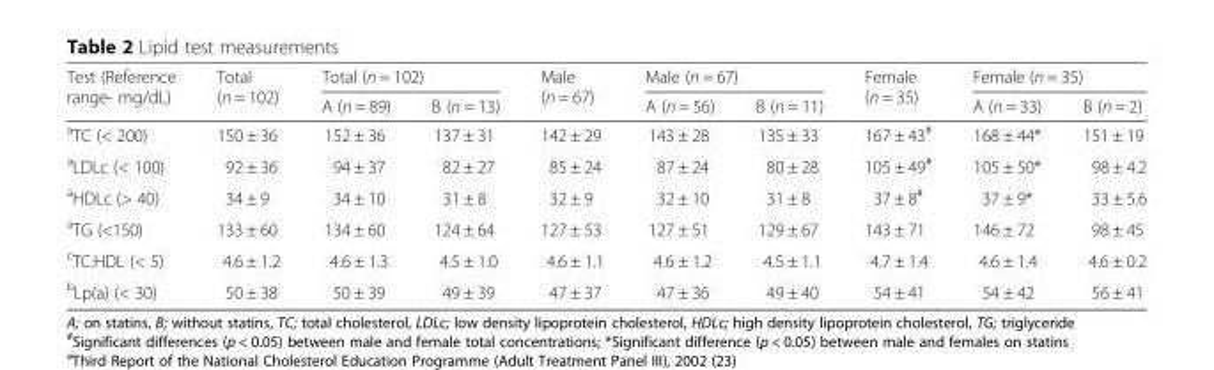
<table><thead><tr><td rowspan="2">Test (Reference range- mg/dL)</td><td rowspan="2">Total (n = 102)</td><td colspan="2">Total (n = 102)</td><td rowspan="2">Male (n = 67)</td><td colspan="2">Male (n = 67)</td><td rowspan="2">Female (n = 35)</td><td colspan="2">Female (n = 35)</td></tr><tr><td>A (n = 89)</td><td>B (n = 13)</td><td>A (n = 56)</td><td>B (n = 11)</td><td>A (n = 33)</td><td>B (n = 2)</td></tr></thead><tbody><tr><td><sup>a</sup>TC (&lt; 200)</td><td>150 ± 36</td><td>152 ± 36</td><td>137 ± 31</td><td>142 ± 29</td><td>143 ± 28</td><td>135 ± 33</td><td>167 ± 43<sup>#</sup></td><td>168 ± 44*</td><td>151 ± 19</td></tr><tr><td><sup>a</sup>LDLc (&lt; 100)</td><td>92 ± 36</td><td>94 ± 37</td><td>82 ± 27</td><td>85 ± 24</td><td>87 ± 24</td><td>80 ± 28</td><td>105 ± 49<sup>#</sup></td><td>105 ± 50*</td><td>98 ± 4.2</td></tr><tr><td><sup>a</sup>HDLc (&gt; 40)</td><td>34 ± 9</td><td>34 ± 10</td><td>31 ± 8</td><td>32 ± 9</td><td>32 ± 10</td><td>31 ± 8</td><td>37 ± 8<sup>#</sup></td><td>37 ± 9*</td><td>33 ± 5.6</td></tr><tr><td><sup>a</sup>TG (&lt;150)</td><td>133 ± 60</td><td>134 ± 60</td><td>124 ± 64</td><td>127 ± 53</td><td>127 ± 51</td><td>129 ± 67</td><td>143 ± 71</td><td>146 ± 72</td><td>98 ± 45</td></tr><tr><td><sup>c</sup>TC:HDL (&lt; 5)</td><td>4.6 ± 1.2</td><td>4.6 ± 1.3</td><td>4.5 ± 1.0</td><td>4.6 ± 1.1</td><td>4.6 ± 1.2</td><td>4.5 ± 1.1</td><td>4.7 ± 1.4</td><td>4.6 ± 1.4</td><td>4.6 ± 0.2</td></tr><tr><td><sup>b</sup>Lp(a) (&lt; 30)</td><td>50 ± 38</td><td>50 ± 39</td><td>49 ± 39</td><td>47 ± 37</td><td>47 ± 36</td><td>49 ± 40</td><td>54 ± 41</td><td>54 ± 42</td><td>56 ± 41</td></tr></tbody></table>